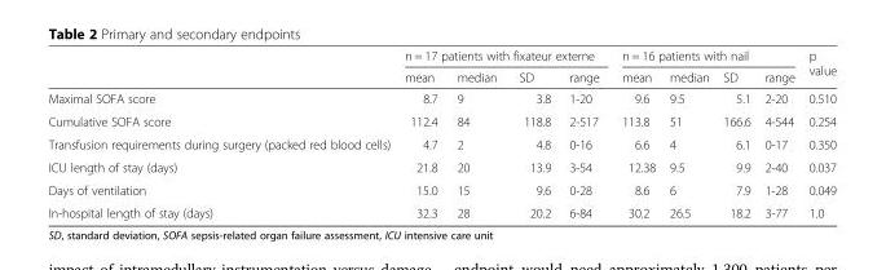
<table><thead><tr><td rowspan="2"></td><td colspan="4">n = 17 patients with fixateur externe</td><td colspan="4">n = 16 patients with nail</td><td rowspan="2">p value</td></tr><tr><td>mean</td><td>median</td><td>SD</td><td>range</td><td>mean</td><td>median</td><td>SD</td><td>range</td></tr></thead><tbody><tr><td>Maximal SOFA score</td><td>8.7</td><td>9</td><td>3.8</td><td>1-20</td><td>9.6</td><td>9.5</td><td>5.1</td><td>2-20</td><td>0.510</td></tr><tr><td>Cumulative SOFA score</td><td>112.4</td><td>84</td><td>118.8</td><td>2-517</td><td>113.8</td><td>51</td><td>166.6</td><td>4-544</td><td>0.254</td></tr><tr><td>Transfusion requirements during surgery (packed red blood cells)</td><td>4.7</td><td>2</td><td>4.8</td><td>0-16</td><td>6.6</td><td>4</td><td>6.1</td><td>0-17</td><td>0.350</td></tr><tr><td>ICU length of stay (days)</td><td>21.8</td><td>20</td><td>13.9</td><td>3-54</td><td>12.38</td><td>9.5</td><td>9.9</td><td>2-40</td><td>0.037</td></tr><tr><td>Days of ventilation</td><td>15.0</td><td>15</td><td>9.6</td><td>0-28</td><td>8.6</td><td>6</td><td>7.9</td><td>1-28</td><td>0.049</td></tr><tr><td>In-hospital length of stay (days)</td><td>32.3</td><td>28</td><td>20.2</td><td>6-84</td><td>30.2</td><td>26.5</td><td>18.2</td><td>3-77</td><td>1.0</td></tr></tbody></table>